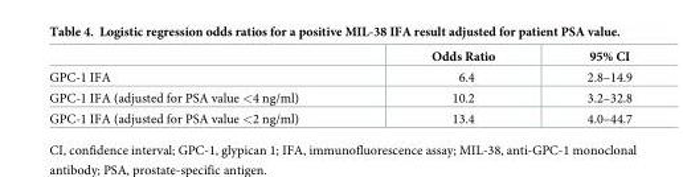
<table><thead><tr><td></td><td>Odds Ratio</td><td>95% CI</td></tr></thead><tbody><tr><td>GPC-1 IFA</td><td>6.4</td><td>2.8–14.9</td></tr><tr><td>GPC-1 IFA (adjusted for PSA value &lt;4 ng/ml)</td><td>10.2</td><td>3.2–32.8</td></tr><tr><td>GPC-1 IFA (adjusted for PSA value &lt;2 ng/ml)</td><td>13.4</td><td>4.0–44.7</td></tr></tbody></table>